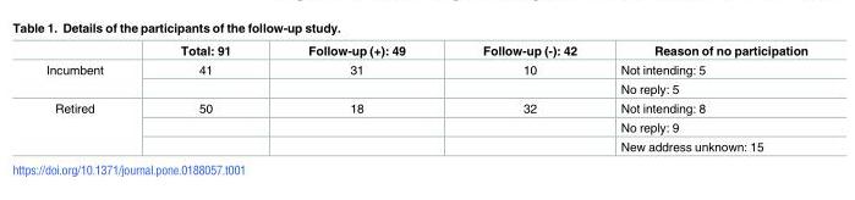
<table><thead><tr><td></td><td>Total: 91</td><td>Follow-up (+): 49</td><td>Follow-up (-): 42</td><td>Reason of no participation</td></tr></thead><tbody><tr><td rowspan="2">Incumbent</td><td>41</td><td>31</td><td>10</td><td>Not intending: 5</td></tr><tr><td></td><td></td><td></td><td>No reply: 5</td></tr><tr><td rowspan="3">Retired</td><td>50</td><td>18</td><td>32</td><td>Not intending: 8</td></tr><tr><td></td><td></td><td></td><td>No reply: 9</td></tr><tr><td></td><td></td><td></td><td>New address unknown: 15</td></tr></tbody></table>